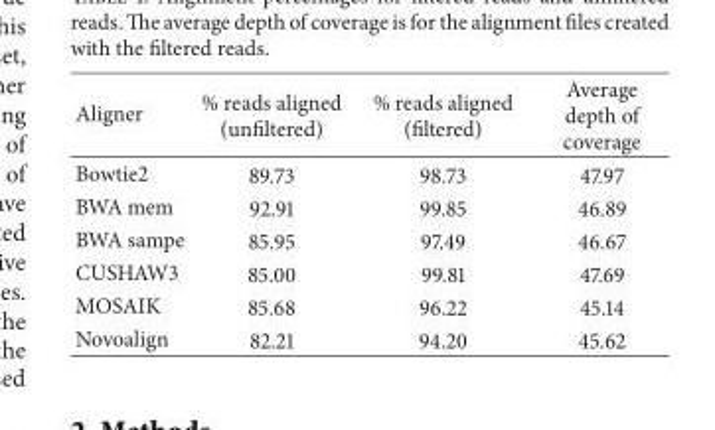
<table><thead><tr><td>Aligner</td><td>% reads aligned (unfiltered)</td><td>% reads aligned (filtered)</td><td>Average depth of coverage</td></tr></thead><tbody><tr><td>Bowtie2</td><td>89.73</td><td>98.73</td><td>47.97</td></tr><tr><td>BWA mem</td><td>92.91</td><td>99.85</td><td>46.89</td></tr><tr><td>BWA sampe</td><td>85.95</td><td>97.49</td><td>46.67</td></tr><tr><td>CUSHAW3</td><td>85.00</td><td>99.81</td><td>47.69</td></tr><tr><td>MOSAIK</td><td>85.68</td><td>96.22</td><td>45.14</td></tr><tr><td>Novoalign</td><td>82.21</td><td>94.20</td><td>45.62</td></tr></tbody></table>